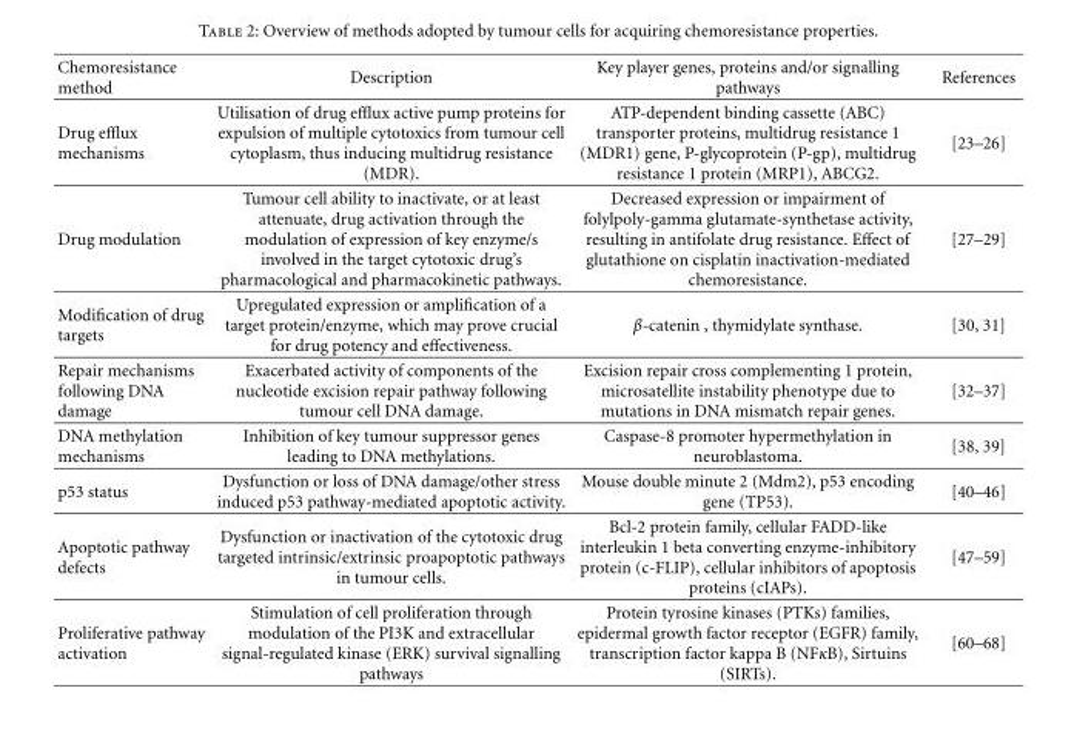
<table><thead><tr><td>Chemoresistance method</td><td>Description</td><td>Key player genes, proteins and/or signalling pathways</td><td>References</td></tr></thead><tbody><tr><td>Drug efflux mechanisms</td><td>Utilisation of drug efflux active pump proteins for expulsion of multiple cytotoxics from tumour cell cytoplasm, thus inducing multidrug resistance (MDR).</td><td>ATP-dependent binding cassette (ABC) transporter proteins, multidrug resistance 1 (MDR1) gene, P-glycoprotein (P-gp), multidrug resistance 1 protein (MRP1), ABCG2.</td><td>[23–26]</td></tr><tr><td>Drug modulation</td><td>Tumour cell ability to inactivate, or at least attenuate, drug activation through the modulation of expression of key enzyme/s involved in the target cytotoxic drug’s pharmacological and pharmacokinetic pathways.</td><td>Decreased expression or impairment of folylpoly-gamma glutamate-synthetase activity, resulting in antifolate drug resistance. Effect of glutathione on cisplatin inactivation-mediated chemoresistance.</td><td>[27–29]</td></tr><tr><td>Modification of drug targets</td><td>Upregulated expression or amplification of a target protein/enzyme, which may prove crucial for drug potency and effectiveness.</td><td>β-catenin , thymidylate synthase.</td><td>[30, 31]</td></tr><tr><td>Repair mechanisms following DNA damage</td><td>Exacerbated activity of components of the nucleotide excision repair pathway following tumour cell DNA damage.</td><td>Excision repair cross complementing 1 protein, microsatellite instability phenotype due to mutations in DNA mismatch repair genes.</td><td>[32–37]</td></tr><tr><td>DNA methylation mechanisms</td><td>Inhibition of key tumour suppressor genes leading to DNA methylations.</td><td>Caspase-8 promoter hypermethylation in neuroblastoma.</td><td>[38, 39]</td></tr><tr><td>p53 status</td><td>Dysfunction or loss of DNA damage/other stress induced p53 pathway-mediated apoptotic activity.</td><td>Mouse double minute 2 (Mdm2), p53 encoding gene (TP53).</td><td>[40–46]</td></tr><tr><td>Apoptotic pathway defects</td><td>Dysfunction or inactivation of the cytotoxic drug targeted intrinsic/extrinsic proapoptotic pathways in tumour cells.</td><td>Bcl-2 protein family, cellular FADD-like interleukin 1 beta converting enzyme-inhibitory protein (c-FLIP), cellular inhibitors of apoptosis proteins (cIAPs).</td><td>[47–59]</td></tr><tr><td>Proliferative pathway activation</td><td>Stimulation of cell proliferation through modulation of the PI3K and extracellular signal-regulated kinase (ERK) survival signalling pathways</td><td>Protein tyrosine kinases (PTKs) families, epidermal growth factor receptor (EGFR) family, transcription factor kappa B (NFκB), Sirtuins (SIRTs).</td><td>[60–68]</td></tr></tbody></table>